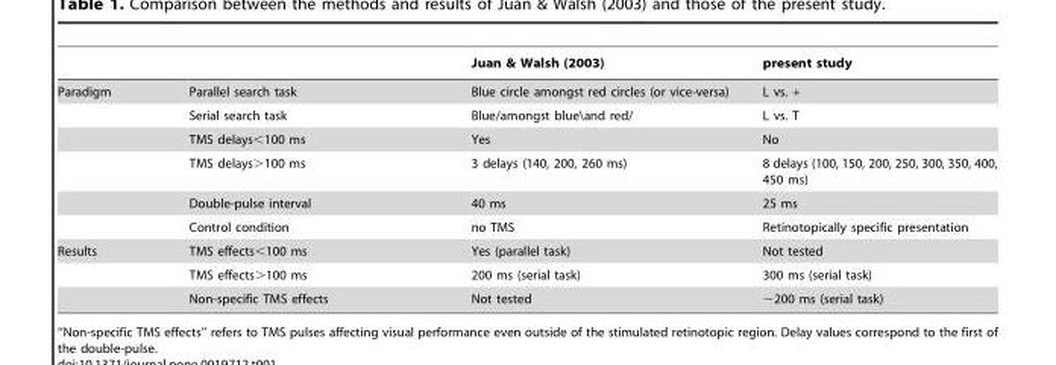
<table><thead><tr><td></td><td></td><td>Juan &amp; Walsh (2003)</td><td>present study</td></tr></thead><tbody><tr><td rowspan="6">Paradigm</td><td>Parallel search task</td><td>Blue circle amongst red circles (or vice-versa)</td><td>L vs. +</td></tr><tr><td>Serial search task</td><td>Blue/amongst blue\and red/</td><td>L vs. T</td></tr><tr><td>TMS delays&lt;100 ms</td><td>Yes</td><td>No</td></tr><tr><td>TMS delays&gt;100 ms</td><td>3 delays (140, 200, 260 ms)</td><td>8 delays (100, 150, 200, 250, 300, 350, 400, 450 ms)</td></tr><tr><td>Double-pulse interval</td><td>40 ms</td><td>25 ms</td></tr><tr><td>Control condition</td><td>no TMS</td><td>Retinotopically specific presentation</td></tr><tr><td rowspan="3">Results</td><td>TMS effects&lt;100 ms</td><td>Yes (parallel task)</td><td>Not tested</td></tr><tr><td>TMS effects&gt;100 ms</td><td>200 ms (serial task)</td><td>300 ms (serial task)</td></tr><tr><td>Non-specific TMS effects</td><td>Not tested</td><td>∼200 ms (serial task)</td></tr></tbody></table>